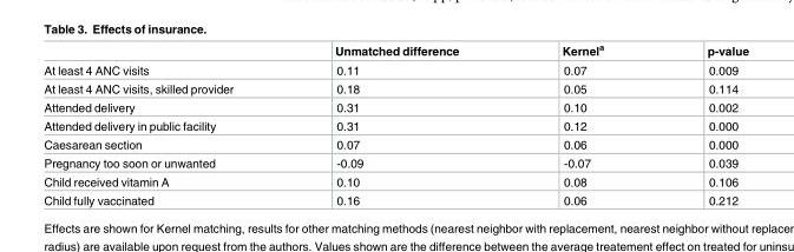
<table><thead><tr><td></td><td>Unmatched difference</td><td>Kernel<sup>a</sup></td><td>p-value</td></tr></thead><tbody><tr><td>At least 4 ANC visits</td><td>0.11</td><td>0.07</td><td>0.009</td></tr><tr><td>At least 4 ANC visits, skilled provider</td><td>0.18</td><td>0.05</td><td>0.114</td></tr><tr><td>Attended delivery</td><td>0.31</td><td>0.10</td><td>0.002</td></tr><tr><td>Attended delivery in public facility</td><td>0.31</td><td>0.12</td><td>0.000</td></tr><tr><td>Caesarean section</td><td>0.07</td><td>0.06</td><td>0.000</td></tr><tr><td>Pregnancy too soon or unwanted</td><td>-0.09</td><td>-0.07</td><td>0.039</td></tr><tr><td>Child received vitamin A</td><td>0.10</td><td>0.08</td><td>0.106</td></tr><tr><td>Child fully vaccinated</td><td>0.16</td><td>0.06</td><td>0.212</td></tr></tbody></table>